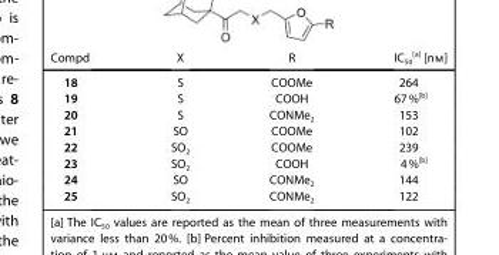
<table><thead><tr><td>Compd</td><td>X</td><td>R</td><td>IC<sub>50</sub> [a] [nm]</td></tr></thead><tbody><tr><td>18</td><td>S</td><td>COOMe</td><td>264</td></tr><tr><td>19</td><td>S</td><td>COOH</td><td>67%[b]</td></tr><tr><td>20</td><td>S</td><td>CONMe<sub>2</sub></td><td>153</td></tr><tr><td>21</td><td>SO</td><td>COOMe</td><td>102</td></tr><tr><td>22</td><td>SO<sub>2</sub></td><td>COOMe</td><td>239</td></tr><tr><td>23</td><td>SO<sub>2</sub></td><td>COOH</td><td>4%[b]</td></tr><tr><td>24</td><td>SO</td><td>CONMe<sub>2</sub></td><td>144</td></tr><tr><td>25</td><td>SO<sub>2</sub></td><td>CONMe<sub>2</sub></td><td>122</td></tr></tbody></table>